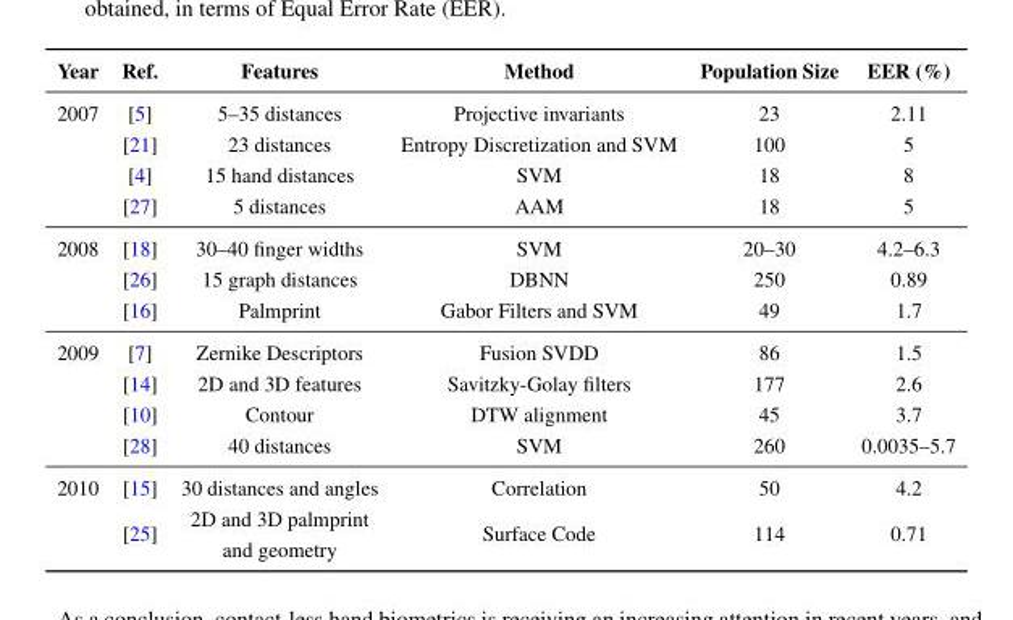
<table><thead><tr><td>Year</td><td>Ref.</td><td>Features</td><td>Method</td><td>Population Size</td><td>EER (%)</td></tr></thead><tbody><tr><td rowspan="4">2007</td><td>[5]</td><td>5–35 distances</td><td>Projective invariants</td><td>23</td><td>2.11</td></tr><tr><td>[21]</td><td>23 distances</td><td>Entropy Discretization and SVM</td><td>100</td><td>5</td></tr><tr><td>[4]</td><td>15 hand distances</td><td>SVM</td><td>18</td><td>8</td></tr><tr><td>[27]</td><td>5 distances</td><td>AAM</td><td>18</td><td>5</td></tr><tr><td rowspan="3">2008</td><td>[18]</td><td>30–40 finger widths</td><td>SVM</td><td>20–30</td><td>4.2–6.3</td></tr><tr><td>[26]</td><td>15 graph distances</td><td>DBNN</td><td>250</td><td>0.89</td></tr><tr><td>[16]</td><td>Palmprint</td><td>Gabor Filters and SVM</td><td>49</td><td>1.7</td></tr><tr><td rowspan="4">2009</td><td>[7]</td><td>Zernike Descriptors</td><td>Fusion SVDD</td><td>86</td><td>1.5</td></tr><tr><td>[14]</td><td>2D and 3D features</td><td>Savitzky-Golay filters</td><td>177</td><td>2.6</td></tr><tr><td>[10]</td><td>Contour</td><td>DTW alignment</td><td>45</td><td>3.7</td></tr><tr><td>[28]</td><td>40 distances</td><td>SVM</td><td>260</td><td>0.0035–5.7</td></tr><tr><td rowspan="2">2010</td><td>[15]</td><td>30 distances and angles</td><td>Correlation</td><td>50</td><td>4.2</td></tr><tr><td>[25]</td><td>2D and 3D palmprint and geometry</td><td>Surface Code</td><td>114</td><td>0.71</td></tr></tbody></table>